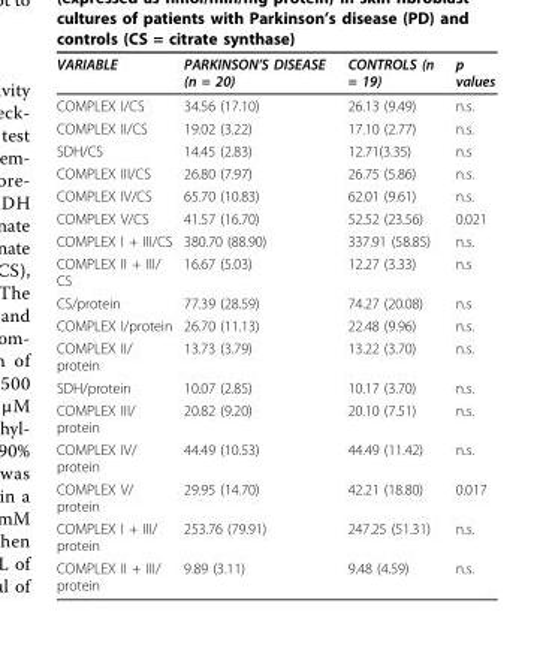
<table><thead><tr><td>VARIABLE</td><td>PARKINSON’S DISEASE (n = 20)</td><td>CONTROLS (n = 19)</td><td>p values</td></tr></thead><tbody><tr><td>COMPLEX I/CS</td><td>34.56 (17.10)</td><td>26.13 (9.49)</td><td>n.s.</td></tr><tr><td>COMPLEX II/CS</td><td>19.02 (3.22)</td><td>17.10 (2.77)</td><td>n.s.</td></tr><tr><td>SDH/CS</td><td>14.45 (2.83)</td><td>12.71(3.35)</td><td>n.s</td></tr><tr><td>COMPLEX III/CS</td><td>26.80 (7.97)</td><td>26.75 (5.86)</td><td>n.s.</td></tr><tr><td>COMPLEX IV/CS</td><td>65.70 (10.83)</td><td>62.01 (9.61)</td><td>n.s.</td></tr><tr><td>COMPLEX V/CS</td><td>41.57 (16.70)</td><td>52.52 (23.56)</td><td>0.021</td></tr><tr><td>COMPLEX I + III/CS</td><td>380.70 (88.90)</td><td>337.91 (58.85)</td><td>n.s.</td></tr><tr><td>COMPLEX II + III/ CS</td><td>16.67 (5.03)</td><td>12.27 (3.33)</td><td>n.s</td></tr><tr><td>CS/protein</td><td>77.39 (28.59)</td><td>74.27 (20.08)</td><td>n.s</td></tr><tr><td>COMPLEX I/protein</td><td>26.70 (11.13)</td><td>22.48 (9.96)</td><td>n.s.</td></tr><tr><td>COMPLEX II/ protein</td><td>13.73 (3.79)</td><td>13.22 (3.70)</td><td>n.s.</td></tr><tr><td>SDH/protein</td><td>10.07 (2.85)</td><td>10.17 (3.70)</td><td>n.s.</td></tr><tr><td>COMPLEX III/ protein</td><td>20.82 (9.20)</td><td>20.10 (7.51)</td><td>n.s.</td></tr><tr><td>COMPLEX IV/ protein</td><td>44.49 (10.53)</td><td>44.49 (11.42)</td><td>n.s.</td></tr><tr><td>COMPLEX V/ protein</td><td>29.95 (14.70)</td><td>42.21 (18.80)</td><td>0.017</td></tr><tr><td>COMPLEX I + III/ protein</td><td>253.76 (79.91)</td><td>247.25 (51.31)</td><td>n.s.</td></tr><tr><td>COMPLEX II + III/ protein</td><td>9.89 (3.11)</td><td>9.48 (4.59)</td><td>n.s.</td></tr></tbody></table>